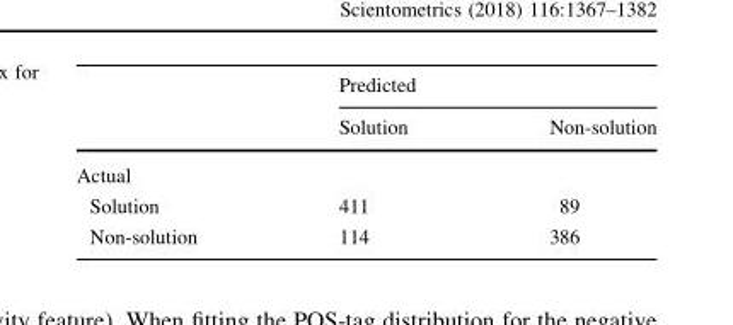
<table><thead><tr><td rowspan="2"></td><td colspan="2">Predicted</td></tr><tr><td>Solution</td><td>Non-solution</td></tr></thead><tbody><tr><td colspan="3">Actual</td></tr><tr><td>Solution</td><td>411</td><td>89</td></tr><tr><td>Non-solution</td><td>114</td><td>386</td></tr></tbody></table>